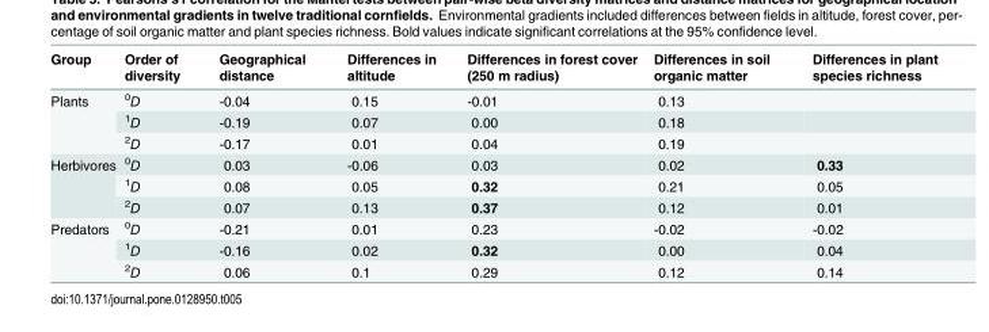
<table><thead><tr><td>Group</td><td>Order of diversity</td><td>Geographical distance</td><td>Differences in altitude</td><td>Differences in forest cover (250 m radius)</td><td>Differences in soil organic matter</td><td>Differences in plant species richness</td></tr></thead><tbody><tr><td rowspan="3">Plants</td><td><sup>0</sup>D</td><td>-0.04</td><td>0.15</td><td>-0.01</td><td>0.13</td><td></td></tr><tr><td><sup>1</sup>D</td><td>-0.19</td><td>0.07</td><td>0.00</td><td>0.18</td><td></td></tr><tr><td><sup>2</sup>D</td><td>-0.17</td><td>0.01</td><td>0.04</td><td>0.19</td><td></td></tr><tr><td rowspan="3">Herbivores</td><td><sup>0</sup>D</td><td>0.03</td><td>-0.06</td><td>0.03</td><td>0.02</td><td>0.33</td></tr><tr><td><sup>1</sup>D</td><td>0.08</td><td>0.05</td><td>0.32</td><td>0.21</td><td>0.05</td></tr><tr><td><sup>2</sup>D</td><td>0.07</td><td>0.13</td><td>0.37</td><td>0.12</td><td>0.01</td></tr><tr><td rowspan="3">Predators</td><td><sup>0</sup>D</td><td>-0.21</td><td>0.01</td><td>0.23</td><td>-0.02</td><td>-0.02</td></tr><tr><td><sup>1</sup>D</td><td>-0.16</td><td>0.02</td><td>0.32</td><td>0.00</td><td>0.04</td></tr><tr><td><sup>2</sup>D</td><td>0.06</td><td>0.1</td><td>0.29</td><td>0.12</td><td>0.14</td></tr></tbody></table>